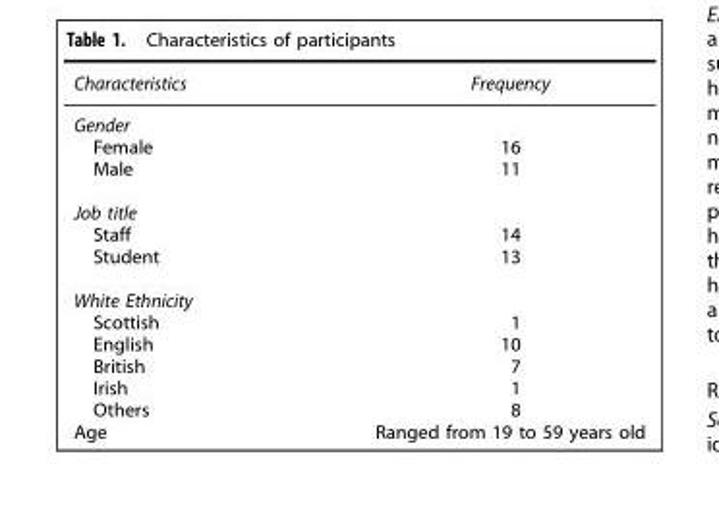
<table><thead><tr><td>Characteristics</td><td>Frequency</td></tr></thead><tbody><tr><td colspan="2">Gender</td></tr><tr><td>Female</td><td>16</td></tr><tr><td>Male</td><td>11</td></tr><tr><td colspan="2">Job title</td></tr><tr><td>Staff</td><td>14</td></tr><tr><td>Student</td><td>13</td></tr><tr><td colspan="2">White Ethnicity</td></tr><tr><td>Scottish</td><td>1</td></tr><tr><td>English</td><td>10</td></tr><tr><td>British</td><td>7</td></tr><tr><td>Irish</td><td>1</td></tr><tr><td>Others</td><td>8</td></tr><tr><td>Age</td><td>Ranged from 19 to 59 years old</td></tr></tbody></table>